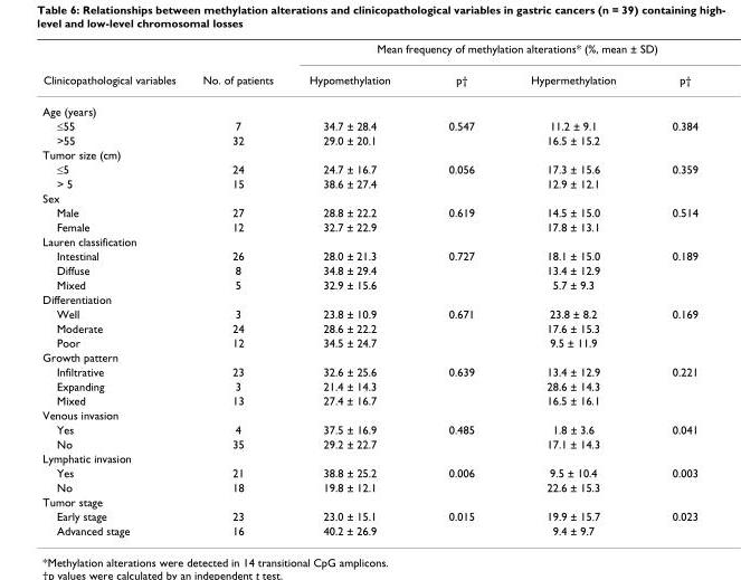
<table><thead><tr><td rowspan="2">Clinicopathological variables</td><td rowspan="2">No. of patients</td><td colspan="4">Mean frequency of methylation alterations* (%, mean ± SD)</td></tr><tr><td>Hypomethylation</td><td>p†</td><td>Hypermethylation</td><td>p†</td></tr></thead><tbody><tr><td colspan="6">Age (years)</td></tr><tr><td>≤55</td><td>7</td><td>34.7 ± 28.4</td><td>0.547</td><td>11.2 ± 9.1</td><td>0.384</td></tr><tr><td>&gt;55</td><td>32</td><td>29.0 ± 20.1</td><td></td><td>16.5 ± 15.2</td><td></td></tr><tr><td colspan="6">Tumor size (cm)</td></tr><tr><td>≤5</td><td>24</td><td>24.7 ± 16.7</td><td>0.056</td><td>17.3 ± 15.6</td><td>0.359</td></tr><tr><td>&gt; 5</td><td>15</td><td>38.6 ± 27.4</td><td></td><td>12.9 ± 12.1</td><td></td></tr><tr><td colspan="6">Sex</td></tr><tr><td>Male</td><td>27</td><td>28.8 ± 22.2</td><td>0.619</td><td>14.5 ± 15.0</td><td>0.514</td></tr><tr><td>Female</td><td>12</td><td>32.7 ± 22.9</td><td></td><td>17.8 ± 13.1</td><td></td></tr><tr><td colspan="6">Lauren classification</td></tr><tr><td>Intestinal</td><td>26</td><td>28.0 ± 21.3</td><td>0.727</td><td>18.1 ± 15.0</td><td>0.189</td></tr><tr><td>Diffuse</td><td>8</td><td>34.8 ± 29.4</td><td></td><td>13.4 ± 12.9</td><td></td></tr><tr><td>Mixed</td><td>5</td><td>32.9 ± 15.6</td><td></td><td>5.7 ± 9.3</td><td></td></tr><tr><td colspan="6">Differentiation</td></tr><tr><td>Well</td><td>3</td><td>23.8 ± 10.9</td><td>0.671</td><td>23.8 ± 8.2</td><td>0.169</td></tr><tr><td>Moderate</td><td>24</td><td>28.6 ± 22.2</td><td></td><td>17.6 ± 15.3</td><td></td></tr><tr><td>Poor</td><td>12</td><td>34.5 ± 24.7</td><td></td><td>9.5 ± 11.9</td><td></td></tr><tr><td colspan="6">Growth pattern</td></tr><tr><td>Infiltrative</td><td>23</td><td>32.6 ± 25.6</td><td>0.639</td><td>13.4 ± 12.9</td><td>0.221</td></tr><tr><td>Expanding</td><td>3</td><td>21.4 ± 14.3</td><td></td><td>28.6 ± 14.3</td><td></td></tr><tr><td>Mixed</td><td>13</td><td>27.4 ± 16.7</td><td></td><td>16.5 ± 16.1</td><td></td></tr><tr><td colspan="6">Venous invasion</td></tr><tr><td>Yes</td><td>4</td><td>37.5 ± 16.9</td><td>0.485</td><td>1.8 ± 3.6</td><td>0.041</td></tr><tr><td>No</td><td>35</td><td>29.2 ± 22.7</td><td></td><td>17.1 ± 14.3</td><td></td></tr><tr><td colspan="6">Lymphatic invasion</td></tr><tr><td>Yes</td><td>21</td><td>38.8 ± 25.2</td><td>0.006</td><td>9.5 ± 10.4</td><td>0.003</td></tr><tr><td>No</td><td>18</td><td>19.8 ± 12.1</td><td></td><td>22.6 ± 15.3</td><td></td></tr><tr><td colspan="6">Tumor stage</td></tr><tr><td>Early stage</td><td>23</td><td>23.0 ± 15.1</td><td>0.015</td><td>19.9 ± 15.7</td><td>0.023</td></tr><tr><td>Advanced stage</td><td>16</td><td>40.2 ± 26.9</td><td></td><td>9.4 ± 9.7</td><td></td></tr></tbody></table>